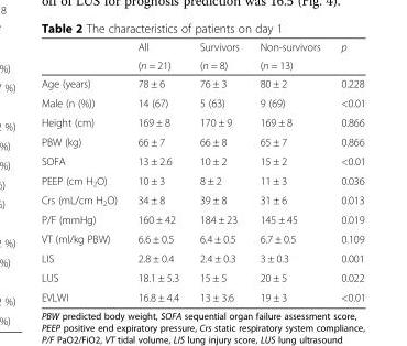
<table><thead><tr><td rowspan="2"></td><td rowspan="2">All (n = 21)</td><td rowspan="2">Survivors (n = 8)</td><td rowspan="2">Non-survivors (n = 13)</td><td rowspan="2">p</td></tr><tr></tr></thead><tbody><tr><td>Age (years)</td><td>78 ± 6</td><td>76 ± 3</td><td>80 ± 2</td><td>0.228</td></tr><tr><td>Male (n (%))</td><td>14 (67)</td><td>5 (63)</td><td>9 (69)</td><td>&lt;0.01</td></tr><tr><td>Height (cm)</td><td>169 ± 8</td><td>170 ± 9</td><td>169 ± 8</td><td>0.866</td></tr><tr><td>PBW (kg)</td><td>66 ± 7</td><td>66 ± 8</td><td>65 ± 7</td><td>0.866</td></tr><tr><td>SOFA</td><td>13 ± 2.6</td><td>10 ± 2</td><td>15 ± 2</td><td>&lt;0.01</td></tr><tr><td>PEEP (cm H<sub>2</sub>O)</td><td>10 ± 3</td><td>8 ± 2</td><td>11 ± 3</td><td>0.036</td></tr><tr><td>Crs (mL/cm H<sub>2</sub>O)</td><td>34 ± 8</td><td>39 ± 8</td><td>31 ± 6</td><td>0.013</td></tr><tr><td>P/F (mmHg)</td><td>160 ± 42</td><td>184 ± 23</td><td>145 ± 45</td><td>0.019</td></tr><tr><td>VT (ml/kg PBW)</td><td>6.6 ± 0.5</td><td>6.4 ± 0.5</td><td>6.7 ± 0.5</td><td>0.109</td></tr><tr><td>LIS</td><td>2.8 ± 0.4</td><td>2.4 ± 0.3</td><td>3 ± 0.3</td><td>0.001</td></tr><tr><td>LUS</td><td>18.1 ± 5.3</td><td>15 ± 5</td><td>20 ± 5</td><td>0.022</td></tr><tr><td>EVLWI</td><td>16.8 ± 4.4</td><td>13 ± 3.6</td><td>19 ± 3</td><td>&lt;0.01</td></tr></tbody></table>